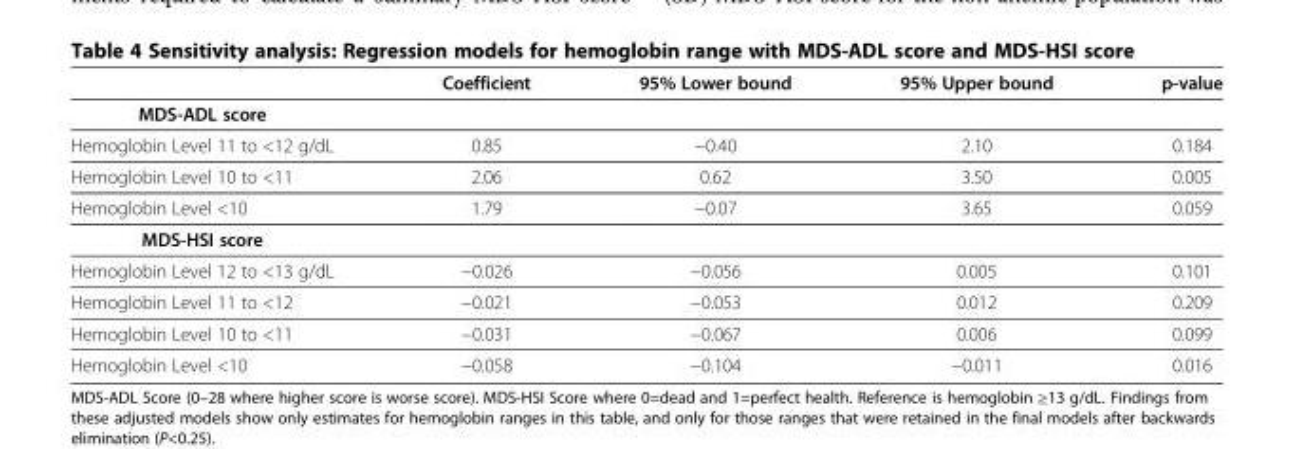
<table><thead><tr><td></td><td>Coefficient</td><td>95% Lower bound</td><td>95% Upper bound</td><td>p-value</td></tr></thead><tbody><tr><td colspan="5">MDS-ADL score</td></tr><tr><td>Hemoglobin Level 11 to &lt;12 g/dL</td><td>0.85</td><td>−0.40</td><td>2.10</td><td>0.184</td></tr><tr><td>Hemoglobin Level 10 to &lt;11</td><td>2.06</td><td>0.62</td><td>3.50</td><td>0.005</td></tr><tr><td>Hemoglobin Level &lt;10</td><td>1.79</td><td>−0.07</td><td>3.65</td><td>0.059</td></tr><tr><td colspan="5">MDS-HSI score</td></tr><tr><td>Hemoglobin Level 12 to &lt;13 g/dL</td><td>−0.026</td><td>−0.056</td><td>0.005</td><td>0.101</td></tr><tr><td>Hemoglobin Level 11 to &lt;12</td><td>−0.021</td><td>−0.053</td><td>0.012</td><td>0.209</td></tr><tr><td>Hemoglobin Level 10 to &lt;11</td><td>−0.031</td><td>−0.067</td><td>0.006</td><td>0.099</td></tr><tr><td>Hemoglobin Level &lt;10</td><td>−0.058</td><td>−0.104</td><td>−0.011</td><td>0.016</td></tr></tbody></table>